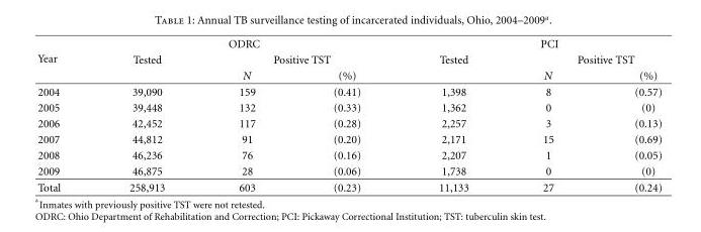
<table><thead><tr><td rowspan="3">Year</td><td colspan="3">ODRC</td><td colspan="3">PCI</td></tr><tr><td rowspan="2">Tested</td><td colspan="2">Positive TST</td><td rowspan="2">Tested</td><td colspan="2">Positive TST</td></tr><tr><td>N</td><td>(%)</td><td>N</td><td>(%)</td></tr></thead><tbody><tr><td>2004</td><td>39,090</td><td>159</td><td>(0.41)</td><td>1,398</td><td>8</td><td>(0.57)</td></tr><tr><td>2005</td><td>39,448</td><td>132</td><td>(0.33)</td><td>1,362</td><td>0</td><td>(0)</td></tr><tr><td>2006</td><td>42,452</td><td>117</td><td>(0.28)</td><td>2,257</td><td>3</td><td>(0.13)</td></tr><tr><td>2007</td><td>44,812</td><td>91</td><td>(0.20)</td><td>2,171</td><td>15</td><td>(0.69)</td></tr><tr><td>2008</td><td>46,236</td><td>76</td><td>(0.16)</td><td>2,207</td><td>1</td><td>(0.05)</td></tr><tr><td>2009</td><td>46,875</td><td>28</td><td>(0.06)</td><td>1,738</td><td>0</td><td>(0)</td></tr><tr><td>Total</td><td>258,913</td><td>603</td><td>(0.23)</td><td>11,133</td><td>27</td><td>(0.24)</td></tr></tbody></table>